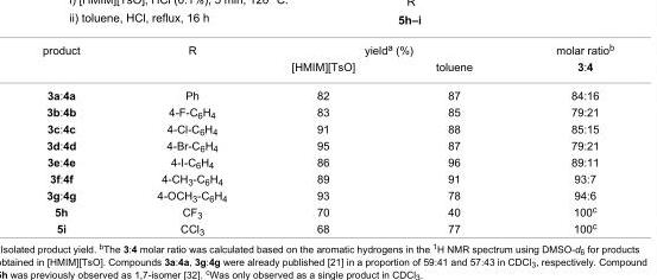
<table><tbody><tr><td rowspan="2">product</td><td rowspan="2">R</td><td colspan="2">yield<sup>a</sup> (%)</td><td>molar ratio<sup>b</sup></td></tr><tr><td>[HMIM][TsO]</td><td>toluene</td><td>3:4</td></tr><tr><td>3a:4a</td><td>Ph</td><td>82</td><td>87</td><td>84:16</td></tr><tr><td>3b:4b</td><td>4-F-C<sub>6</sub>H<sub>4</sub></td><td>83</td><td>85</td><td>79:21</td></tr><tr><td>3c:4c</td><td>4-Cl-C<sub>6</sub>H<sub>4</sub></td><td>91</td><td>88</td><td>85:15</td></tr><tr><td>3d:4d</td><td>4-Br-C<sub>6</sub>H<sub>4</sub></td><td>95</td><td>87</td><td>79:21</td></tr><tr><td>3e:4e</td><td>4-I-C<sub>6</sub>H<sub>4</sub></td><td>86</td><td>96</td><td>89:11</td></tr><tr><td>3f:4f</td><td>4-CH<sub>3</sub>-C<sub>6</sub>H<sub>4</sub></td><td>89</td><td>91</td><td>93:7</td></tr><tr><td>3g:4g</td><td>4-OCH<sub>3</sub>-C<sub>6</sub>H<sub>4</sub></td><td>93</td><td>78</td><td>94:6</td></tr><tr><td>5h</td><td>CF<sub>3</sub></td><td>70</td><td>40</td><td>100<sup>c</sup></td></tr><tr><td>5i</td><td>CCl<sub>3</sub></td><td>68</td><td>77</td><td>100<sup>c</sup></td></tr></tbody></table>